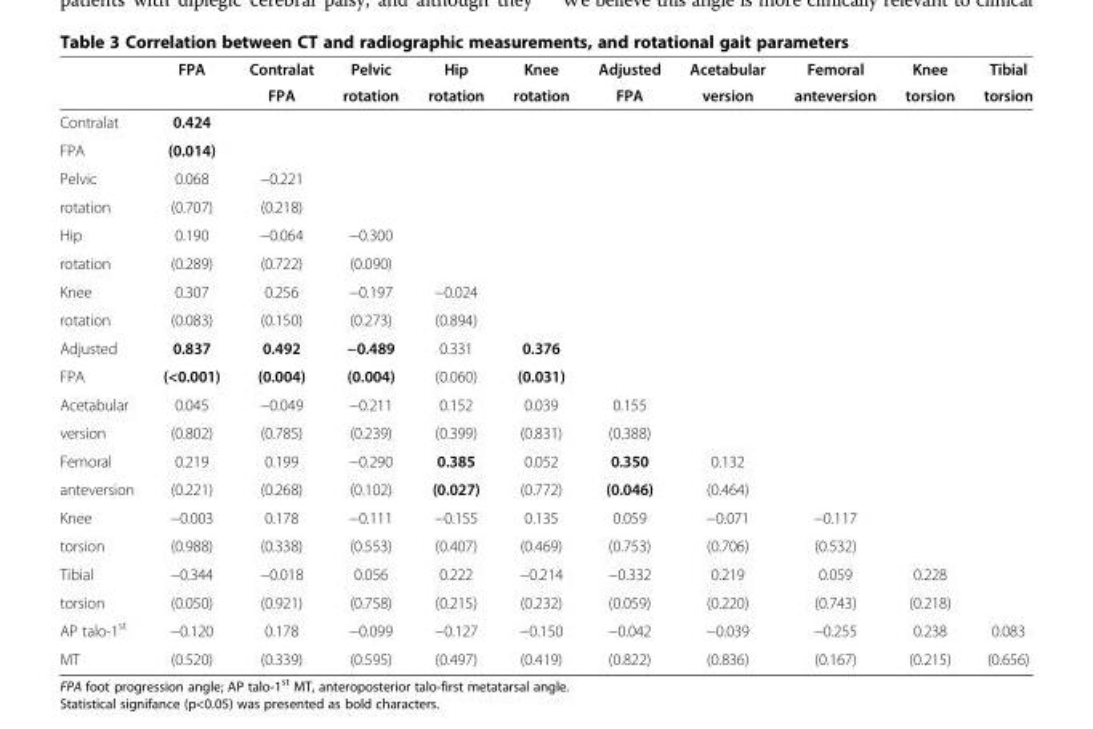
<table><thead><tr><td rowspan="2"></td><td rowspan="2">FPA</td><td rowspan="2">Contralat FPA</td><td rowspan="2">Pelvic rotation</td><td rowspan="2">Hip rotation</td><td rowspan="2">Knee rotation</td><td rowspan="2">Adjusted FPA</td><td rowspan="2">Acetabular version</td><td rowspan="2">Femoral anteversion</td><td rowspan="2">Knee torsion</td><td rowspan="2">Tibial torsion</td></tr><tr></tr></thead><tbody><tr><td>Contralat</td><td>0.424</td><td rowspan="2"></td><td rowspan="2"></td><td rowspan="2"></td><td rowspan="2"></td><td rowspan="2"></td><td rowspan="2"></td><td rowspan="2"></td><td rowspan="2"></td><td rowspan="2"></td></tr><tr><td>FPA</td><td>(0.014)</td></tr><tr><td>Pelvic</td><td>0.068</td><td>−0.221</td><td></td><td></td><td></td><td></td><td></td><td></td><td></td><td></td></tr><tr><td>rotation</td><td>(0.707)</td><td>(0.218)</td><td></td><td></td><td></td><td></td><td></td><td></td><td></td><td></td></tr><tr><td>Hip</td><td>0.190</td><td>−0.064</td><td>−0.300</td><td></td><td></td><td></td><td></td><td></td><td></td><td></td></tr><tr><td>rotation</td><td>(0.289)</td><td>(0.722)</td><td>(0.090)</td><td></td><td></td><td></td><td></td><td></td><td></td><td></td></tr><tr><td>Knee</td><td>0.307</td><td>0.256</td><td>−0.197</td><td>−0.024</td><td></td><td></td><td></td><td></td><td></td><td></td></tr><tr><td>rotation</td><td>(0.083)</td><td>(0.150)</td><td>(0.273)</td><td>(0.894)</td><td></td><td></td><td></td><td></td><td></td><td></td></tr><tr><td>Adjusted</td><td>0.837</td><td>0.492</td><td>−0.489</td><td>0.331</td><td>0.376</td><td></td><td></td><td></td><td></td><td></td></tr><tr><td>FPA</td><td>(&lt;0.001)</td><td>(0.004)</td><td>(0.004)</td><td>(0.060)</td><td>(0.031)</td><td></td><td></td><td></td><td></td><td></td></tr><tr><td>Acetabular</td><td>0.045</td><td>−0.049</td><td>−0.211</td><td>0.152</td><td>0.039</td><td>0.155</td><td></td><td></td><td></td><td></td></tr><tr><td>version</td><td>(0.802)</td><td>(0.785)</td><td>(0.239)</td><td>(0.399)</td><td>(0.831)</td><td>(0.388)</td><td></td><td></td><td></td><td></td></tr><tr><td>Femoral</td><td>0.219</td><td>0.199</td><td>−0.290</td><td>0.385</td><td>0.052</td><td>0.350</td><td>0.132</td><td></td><td></td><td></td></tr><tr><td>anteversion</td><td>(0.221)</td><td>(0.268)</td><td>(0.102)</td><td>(0.027)</td><td>(0.772)</td><td>(0.046)</td><td>(0.464)</td><td></td><td></td><td></td></tr><tr><td>Knee</td><td>−0.003</td><td>0.178</td><td>−0.111</td><td>−0.155</td><td>0.135</td><td>0.059</td><td>−0.071</td><td>−0.117</td><td></td><td></td></tr><tr><td>torsion</td><td>(0.988)</td><td>(0.338)</td><td>(0.553)</td><td>(0.407)</td><td>(0.469)</td><td>(0.753)</td><td>(0.706)</td><td>(0.532)</td><td></td><td></td></tr><tr><td>Tibial</td><td>−0.344</td><td>−0.018</td><td>0.056</td><td>0.222</td><td>−0.214</td><td>−0.332</td><td>0.219</td><td>0.059</td><td>0.228</td><td></td></tr><tr><td>torsion</td><td>(0.050)</td><td>(0.921)</td><td>(0.758)</td><td>(0.215)</td><td>(0.232)</td><td>(0.059)</td><td>(0.220)</td><td>(0.743)</td><td>(0.218)</td><td></td></tr><tr><td>AP talo-1<sup>st</sup></td><td>−0.120</td><td>0.178</td><td>−0.099</td><td>−0.127</td><td>−0.150</td><td>−0.042</td><td>−0.039</td><td>−0.255</td><td>0.238</td><td>0.083</td></tr><tr><td>MT</td><td>(0.520)</td><td>(0.339)</td><td>(0.595)</td><td>(0.497)</td><td>(0.419)</td><td>(0.822)</td><td>(0.836)</td><td>(0.167)</td><td>(0.215)</td><td>(0.656)</td></tr></tbody></table>